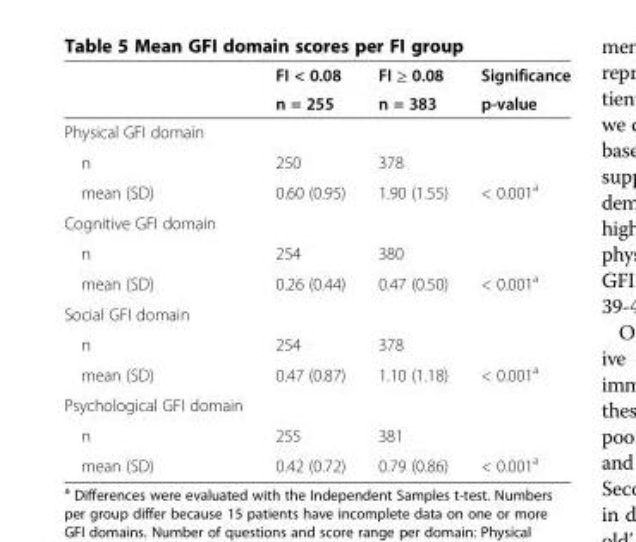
<table><thead><tr><td rowspan="2"></td><td rowspan="2">FI &lt; 0.08 n = 255</td><td rowspan="2">FI ≥ 0.08 n = 383</td><td rowspan="2">Significance p-value</td></tr><tr></tr></thead><tbody><tr><td colspan="4">Physical GFI domain</td></tr><tr><td>n</td><td>250</td><td>378</td><td></td></tr><tr><td>mean (SD)</td><td>0.60 (0.95)</td><td>1.90 (1.55)</td><td>&lt; 0.001<sup>a</sup></td></tr><tr><td colspan="4">Cognitive GFI domain</td></tr><tr><td>n</td><td>254</td><td>380</td><td></td></tr><tr><td>mean (SD)</td><td>0.26 (0.44)</td><td>0.47 (0.50)</td><td>&lt; 0.001<sup>a</sup></td></tr><tr><td colspan="4">Social GFI domain</td></tr><tr><td>n</td><td>254</td><td>378</td><td></td></tr><tr><td>mean (SD)</td><td>0.47 (0.87)</td><td>1.10 (1.18)</td><td>&lt; 0.001<sup>a</sup></td></tr><tr><td colspan="4">Psychological GFI domain</td></tr><tr><td>n</td><td>255</td><td>381</td><td></td></tr><tr><td>mean (SD)</td><td>0.42 (0.72)</td><td>0.79 (0.86)</td><td>&lt; 0.001<sup>a</sup></td></tr></tbody></table>